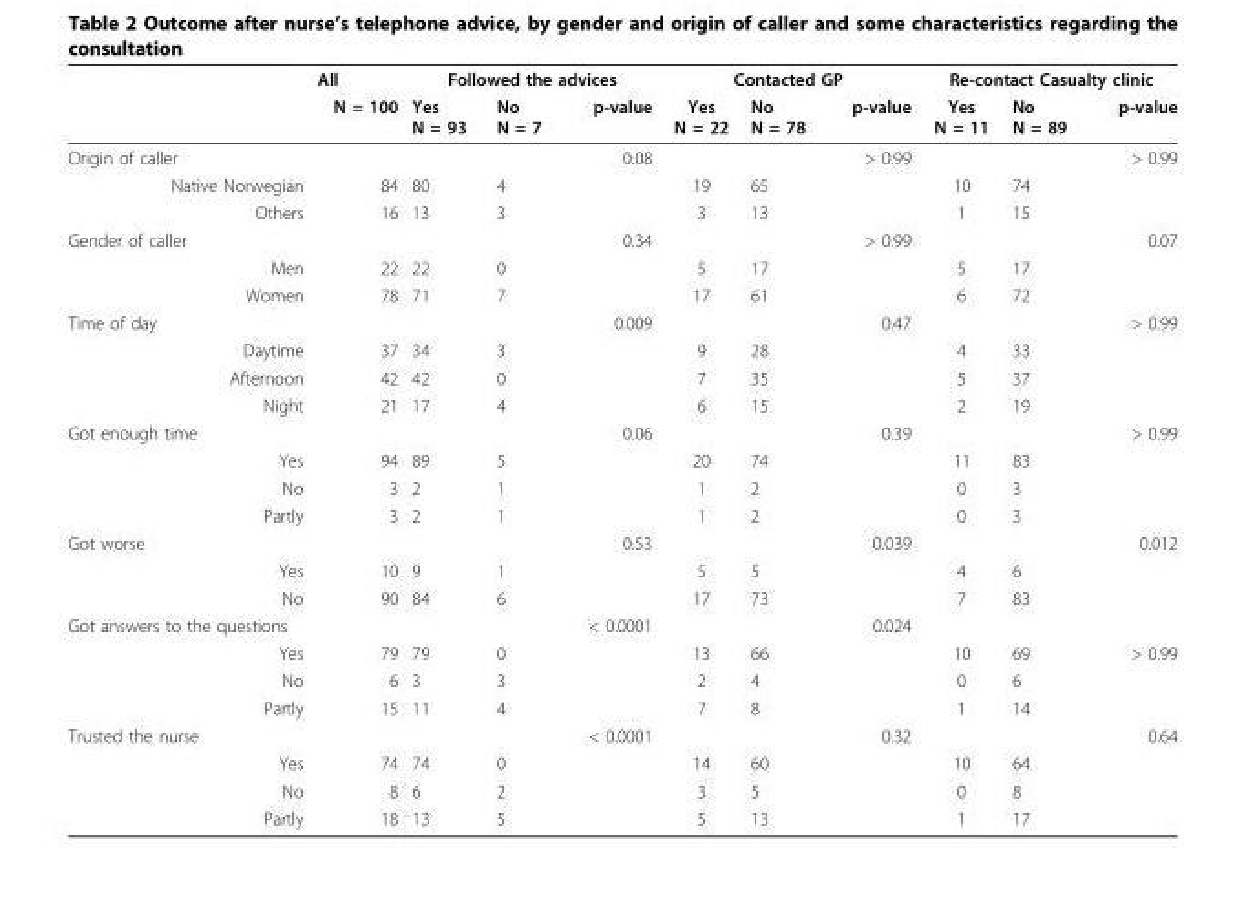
<table><thead><tr><td rowspan="2"></td><td rowspan="2">All N = 100</td><td colspan="3">Followed the advices</td><td colspan="3">Contacted GP</td><td colspan="3">Re-contact Casualty clinic</td></tr><tr><td>Yes N = 93</td><td>No N = 7</td><td>p-value</td><td>Yes N = 22</td><td>No N = 78</td><td>p-value</td><td>Yes N = 11</td><td>No N = 89</td><td>p-value</td></tr></thead><tbody><tr><td>Origin of caller</td><td></td><td></td><td></td><td>0.08</td><td></td><td></td><td>&gt; 0.99</td><td></td><td></td><td>&gt; 0.99</td></tr><tr><td>Native Norwegian</td><td>84</td><td>80</td><td>4</td><td></td><td>19</td><td>65</td><td></td><td>10</td><td>74</td><td></td></tr><tr><td>Others</td><td>16</td><td>13</td><td>3</td><td></td><td>3</td><td>13</td><td></td><td>1</td><td>15</td><td></td></tr><tr><td>Gender of caller</td><td></td><td></td><td></td><td>0.34</td><td></td><td></td><td>&gt; 0.99</td><td></td><td></td><td>0.07</td></tr><tr><td>Men</td><td>22</td><td>22</td><td>0</td><td></td><td>5</td><td>17</td><td></td><td>5</td><td>17</td><td></td></tr><tr><td>Women</td><td>78</td><td>71</td><td>7</td><td></td><td>17</td><td>61</td><td></td><td>6</td><td>72</td><td></td></tr><tr><td>Time of day</td><td></td><td></td><td></td><td>0.009</td><td></td><td></td><td>0.47</td><td></td><td></td><td>&gt; 0.99</td></tr><tr><td>Daytime</td><td>37</td><td>34</td><td>3</td><td></td><td>9</td><td>28</td><td></td><td>4</td><td>33</td><td></td></tr><tr><td>Afternoon</td><td>42</td><td>42</td><td>0</td><td></td><td>7</td><td>35</td><td></td><td>5</td><td>37</td><td></td></tr><tr><td>Night</td><td>21</td><td>17</td><td>4</td><td></td><td>6</td><td>15</td><td></td><td>2</td><td>19</td><td></td></tr><tr><td>Got enough time</td><td></td><td></td><td></td><td>0.06</td><td></td><td></td><td>0.39</td><td></td><td></td><td>&gt; 0.99</td></tr><tr><td>Yes</td><td>94</td><td>89</td><td>5</td><td></td><td>20</td><td>74</td><td></td><td>11</td><td>83</td><td></td></tr><tr><td>No</td><td>3</td><td>2</td><td>1</td><td></td><td>1</td><td>2</td><td></td><td>0</td><td>3</td><td></td></tr><tr><td>Partly</td><td>3</td><td>2</td><td>1</td><td></td><td>1</td><td>2</td><td></td><td>0</td><td>3</td><td></td></tr><tr><td>Got worse</td><td></td><td></td><td></td><td>0.53</td><td></td><td></td><td>0.039</td><td></td><td></td><td>0.012</td></tr><tr><td>Yes</td><td>10</td><td>9</td><td>1</td><td></td><td>5</td><td>5</td><td></td><td>4</td><td>6</td><td></td></tr><tr><td>No</td><td>90</td><td>84</td><td>6</td><td></td><td>17</td><td>73</td><td></td><td>7</td><td>83</td><td></td></tr><tr><td>Got answers to the questions</td><td></td><td></td><td></td><td>&lt; 0.0001</td><td></td><td></td><td>0.024</td><td></td><td></td><td></td></tr><tr><td>Yes</td><td>79</td><td>79</td><td>0</td><td></td><td>13</td><td>66</td><td></td><td>10</td><td>69</td><td>&gt; 0.99</td></tr><tr><td>No</td><td>6</td><td>3</td><td>3</td><td></td><td>2</td><td>4</td><td></td><td>0</td><td>6</td><td></td></tr><tr><td>Partly</td><td>15</td><td>11</td><td>4</td><td></td><td>7</td><td>8</td><td></td><td>1</td><td>14</td><td></td></tr><tr><td>Trusted the nurse</td><td></td><td></td><td></td><td>&lt; 0.0001</td><td></td><td></td><td>0.32</td><td></td><td></td><td>0.64</td></tr><tr><td>Yes</td><td>74</td><td>74</td><td>0</td><td></td><td>14</td><td>60</td><td></td><td>10</td><td>64</td><td></td></tr><tr><td>No</td><td>8</td><td>6</td><td>2</td><td></td><td>3</td><td>5</td><td></td><td>0</td><td>8</td><td></td></tr><tr><td>Partly</td><td>18</td><td>13</td><td>5</td><td></td><td>5</td><td>13</td><td></td><td>1</td><td>17</td><td></td></tr></tbody></table>